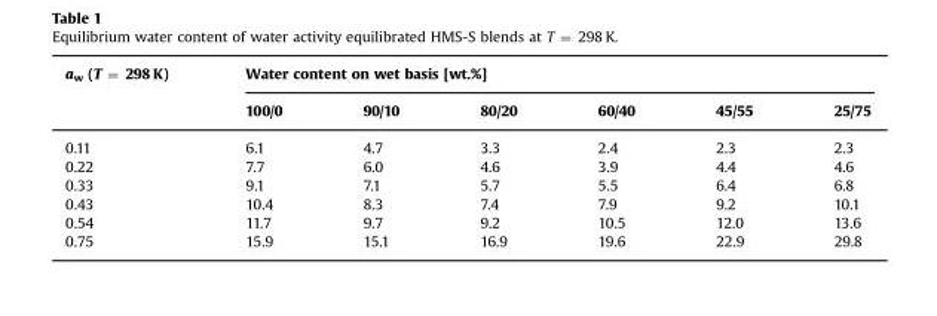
<table><thead><tr><td rowspan="2">a<sub>w</sub> (T = 298 K)</td><td colspan="6">Water content on wet basis [wt.%]</td></tr><tr><td>100/0</td><td>90/10</td><td>80/20</td><td>60/40</td><td>45/55</td><td>25/75</td></tr></thead><tbody><tr><td>0.11</td><td>6.1</td><td>4.7</td><td>3.3</td><td>2.4</td><td>2.3</td><td>2.3</td></tr><tr><td>0.22</td><td>7.7</td><td>6.0</td><td>4.6</td><td>3.9</td><td>4.4</td><td>4.6</td></tr><tr><td>0.33</td><td>9.1</td><td>7.1</td><td>5.7</td><td>5.5</td><td>6.4</td><td>6.8</td></tr><tr><td>0.43</td><td>10.4</td><td>8.3</td><td>7.4</td><td>7.9</td><td>9.2</td><td>10.1</td></tr><tr><td>0.54</td><td>11.7</td><td>9.7</td><td>9.2</td><td>10.5</td><td>12.0</td><td>13.6</td></tr><tr><td>0.75</td><td>15.9</td><td>15.1</td><td>16.9</td><td>19.6</td><td>22.9</td><td>29.8</td></tr></tbody></table>